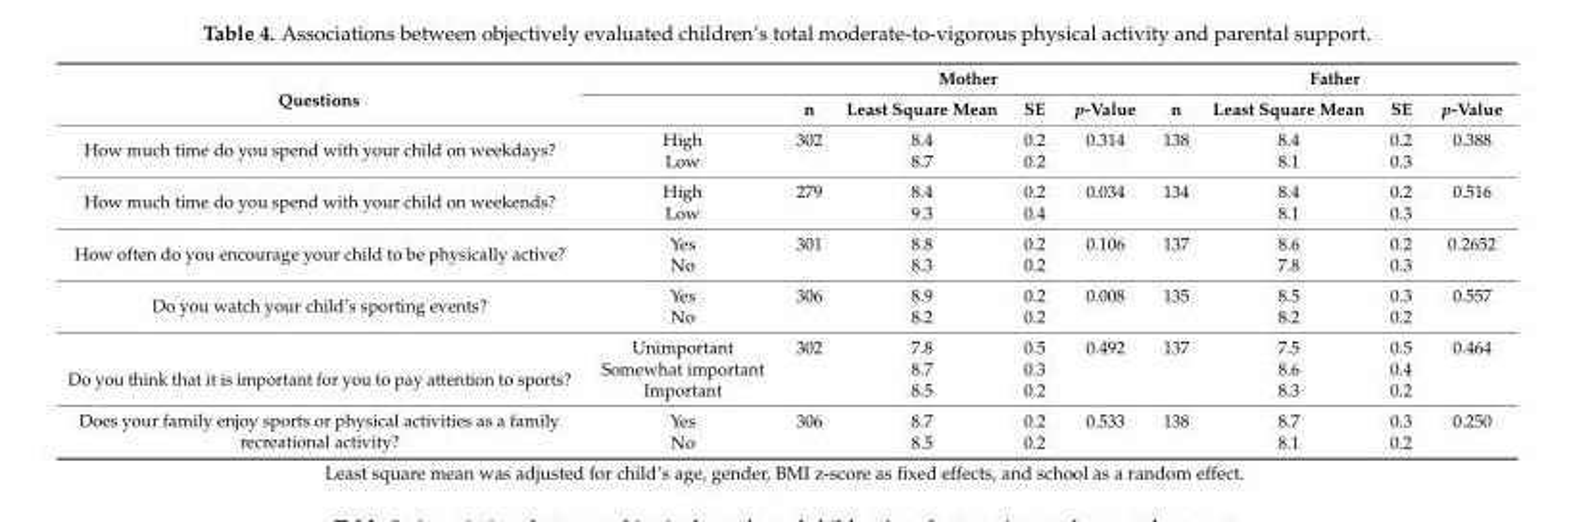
<table><thead><tr><td rowspan="2">Questions</td><td rowspan="2"></td><td colspan="4">Mother</td><td colspan="4">Father</td></tr><tr><td>n</td><td>Least Square Mean</td><td>SE</td><td>p-Value</td><td>n</td><td>Least Square Mean</td><td>SE</td><td>p-Value</td></tr></thead><tbody><tr><td rowspan="2">How much time do you spend with your child on weekdays?</td><td>High</td><td>302</td><td>8.4</td><td>0.2</td><td>0.314</td><td>138</td><td>8.4</td><td>0.2</td><td>0.388</td></tr><tr><td>Low</td><td></td><td>8.7</td><td>0.2</td><td></td><td></td><td>8.1</td><td>0.3</td><td></td></tr><tr><td rowspan="2">How much time do you spend with your child on weekends?</td><td>High</td><td>279</td><td>8.4</td><td>0.2</td><td>0.034</td><td>134</td><td>8.4</td><td>0.2</td><td>0.516</td></tr><tr><td>Low</td><td></td><td>9.3</td><td>0.4</td><td></td><td></td><td>8.1</td><td>0.3</td><td></td></tr><tr><td rowspan="2">How often do you encourage your child to be physically active?</td><td>Yes</td><td>301</td><td>8.8</td><td>0.2</td><td>0.106</td><td>137</td><td>8.6</td><td>0.2</td><td>0.2652</td></tr><tr><td>No</td><td></td><td>8.3</td><td>0.2</td><td></td><td></td><td>7.8</td><td>0.3</td><td></td></tr><tr><td rowspan="2">Do you watch your child’s sporting events?</td><td>Yes</td><td>306</td><td>8.9</td><td>0.2</td><td>0.008</td><td>135</td><td>8.5</td><td>0.3</td><td>0.557</td></tr><tr><td>No</td><td></td><td>8.2</td><td>0.2</td><td></td><td></td><td>8.2</td><td>0.2</td><td></td></tr><tr><td rowspan="3">Do you think that it is important for you to pay attention to sports?</td><td>Unimportant</td><td>302</td><td>7.8</td><td>0.5</td><td>0.492</td><td>137</td><td>7.5</td><td>0.5</td><td>0.464</td></tr><tr><td>Somewhat important</td><td></td><td>8.7</td><td>0.3</td><td></td><td></td><td>8.6</td><td>0.4</td><td></td></tr><tr><td>Important</td><td></td><td>8.5</td><td>0.2</td><td></td><td></td><td>8.3</td><td>0.2</td><td></td></tr><tr><td rowspan="2">Does your family enjoy sports or physical activities as a family recreational activity?</td><td>Yes</td><td>306</td><td>8.7</td><td>0.2</td><td>0.533</td><td>138</td><td>8.7</td><td>0.3</td><td>0.250</td></tr><tr><td>No</td><td></td><td>8.5</td><td>0.2</td><td></td><td></td><td>8.1</td><td>0.2</td><td></td></tr></tbody></table>